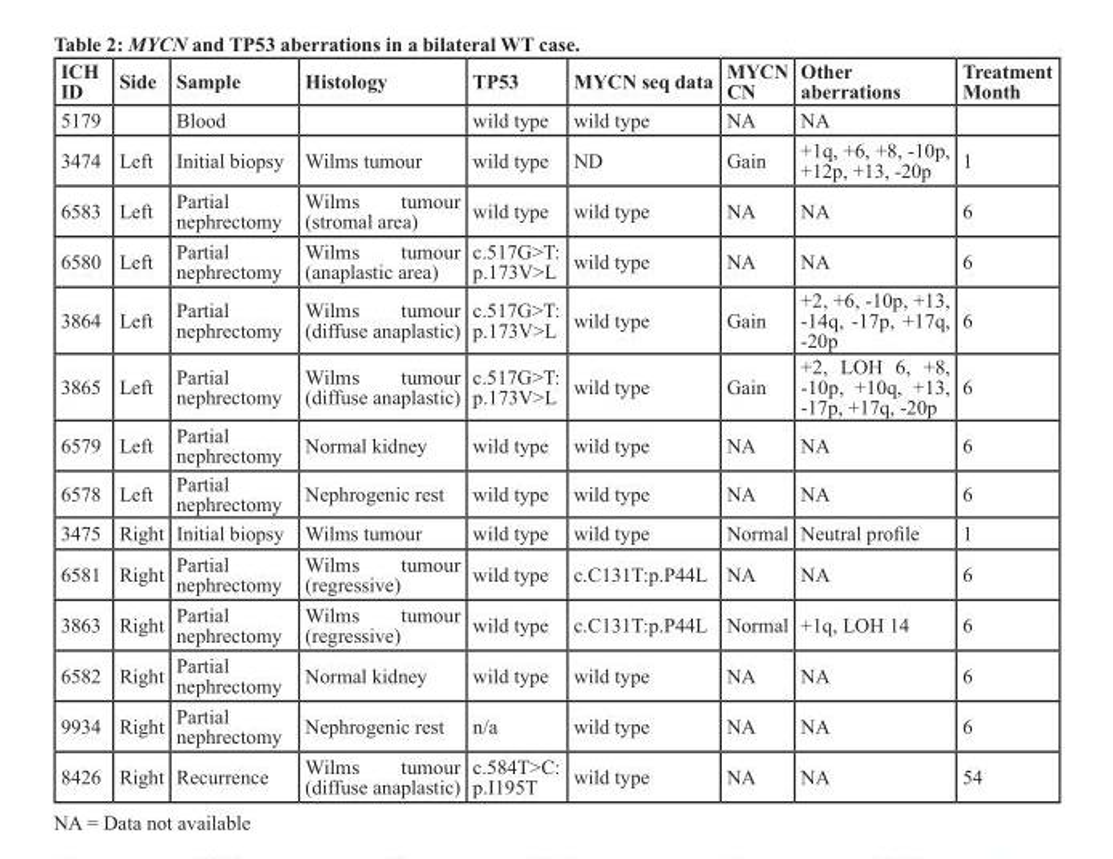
<table><thead><tr><td>ICH ID</td><td>Side</td><td>Sample</td><td>Histology</td><td>TP53</td><td>MYCN seq data</td><td>MYCN CN</td><td>Other aberrations</td><td>Treatment Month</td></tr></thead><tbody><tr><td>5179</td><td></td><td>Blood</td><td></td><td>wild type</td><td>wild type</td><td>NA</td><td>NA</td><td></td></tr><tr><td>3474</td><td>Left</td><td>Initial biopsy</td><td>Wilms tumour</td><td>wild type</td><td>ND</td><td>Gain</td><td>+1q, +6, +8, -10p, +12p, +13, -20p</td><td>1</td></tr><tr><td>6583</td><td>Left</td><td>Partial nephrectomy</td><td>Wilms tumour (stromal area)</td><td>wild type</td><td>wild type</td><td>NA</td><td>NA</td><td>6</td></tr><tr><td>6580</td><td>Left</td><td>Partial nephrectomy</td><td>Wilms tumour (anaplastic area)</td><td>c.517G&gt;T: p.173V&gt;L</td><td>wild type</td><td>NA</td><td>NA</td><td>6</td></tr><tr><td>3864</td><td>Left</td><td>Partial nephrectomy</td><td>Wilms tumour (diffuse anaplastic)</td><td>c.517G&gt;T: p.173V&gt;L</td><td>wild type</td><td>Gain</td><td>+2, +6, -10p, +13, -14q, -17p, +17q, -20p</td><td>6</td></tr><tr><td>3865</td><td>Left</td><td>Partial nephrectomy</td><td>Wilms tumour (diffuse anaplastic)</td><td>c.517G&gt;T: p.173V&gt;L</td><td>wild type</td><td>Gain</td><td>+2, LOH 6, +8, -10p, +10q, +13, -17p, +17q, -20p</td><td>6</td></tr><tr><td>6579</td><td>Left</td><td>Partial nephrectomy</td><td>Normal kidney</td><td>wild type</td><td>wild type</td><td>NA</td><td>NA</td><td>6</td></tr><tr><td>6578</td><td>Left</td><td>Partial nephrectomy</td><td>Nephrogenic rest</td><td>wild type</td><td>wild type</td><td>NA</td><td>NA</td><td>6</td></tr><tr><td>3475</td><td>Right</td><td>Initial biopsy</td><td>Wilms tumour</td><td>wild type</td><td>wild type</td><td>Normal</td><td>Neutral profile</td><td>1</td></tr><tr><td>6581</td><td>Right</td><td>Partial nephrectomy</td><td>Wilms tumour (regressive)</td><td>wild type</td><td>c.C131T:p.P44L</td><td>NA</td><td>NA</td><td>6</td></tr><tr><td>3863</td><td>Right</td><td>Partial nephrectomy</td><td>Wilms tumour (regressive)</td><td>wild type</td><td>c.C131T:p.P44L</td><td>Normal</td><td>+1q, LOH 14</td><td>6</td></tr><tr><td>6582</td><td>Right</td><td>Partial nephrectomy</td><td>Normal kidney</td><td>wild type</td><td>wild type</td><td>NA</td><td>NA</td><td>6</td></tr><tr><td>9934</td><td>Right</td><td>Partial nephrectomy</td><td>Nephrogenic rest</td><td>n/a</td><td>wild type</td><td>NA</td><td>NA</td><td>6</td></tr><tr><td>8426</td><td>Right</td><td>Recurrence</td><td>Wilms tumour (diffuse anaplastic)</td><td>c.584T&gt;C: p.I195T</td><td>wild type</td><td>NA</td><td>NA</td><td>54</td></tr></tbody></table>